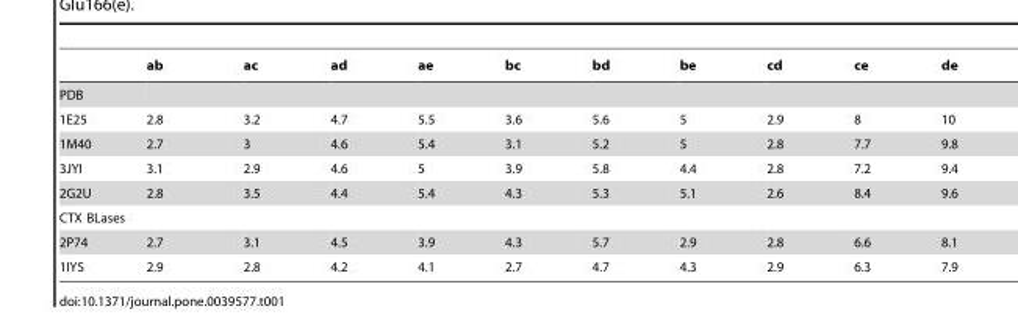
<table><thead><tr><td></td><td>ab</td><td>ac</td><td>ad</td><td>ae</td><td>bc</td><td>bd</td><td>be</td><td>cd</td><td>ce</td><td>de</td></tr></thead><tbody><tr><td colspan="11">PDB</td></tr><tr><td>1E25</td><td>2.8</td><td>3.2</td><td>4.7</td><td>5.5</td><td>3.6</td><td>5.6</td><td>5</td><td>2.9</td><td>8</td><td>10</td></tr><tr><td>1M40</td><td>2.7</td><td>3</td><td>4.6</td><td>5.4</td><td>3.1</td><td>5.2</td><td>5</td><td>2.8</td><td>7.7</td><td>9.8</td></tr><tr><td>3JYI</td><td>3.1</td><td>2.9</td><td>4.6</td><td>5</td><td>3.9</td><td>5.8</td><td>4.4</td><td>2.8</td><td>7.2</td><td>9.4</td></tr><tr><td>2G2U</td><td>2.8</td><td>3.5</td><td>4.4</td><td>5.4</td><td>4.3</td><td>5.3</td><td>5.1</td><td>2.6</td><td>8.4</td><td>9.6</td></tr><tr><td colspan="11">CTX BLases</td></tr><tr><td>2P74</td><td>2.7</td><td>3.1</td><td>4.5</td><td>3.9</td><td>4.3</td><td>5.7</td><td>2.9</td><td>2.8</td><td>6.6</td><td>8.1</td></tr><tr><td>1IYS</td><td>2.9</td><td>2.8</td><td>4.2</td><td>4.1</td><td>2.7</td><td>4.7</td><td>4.3</td><td>2.9</td><td>6.3</td><td>7.9</td></tr></tbody></table>